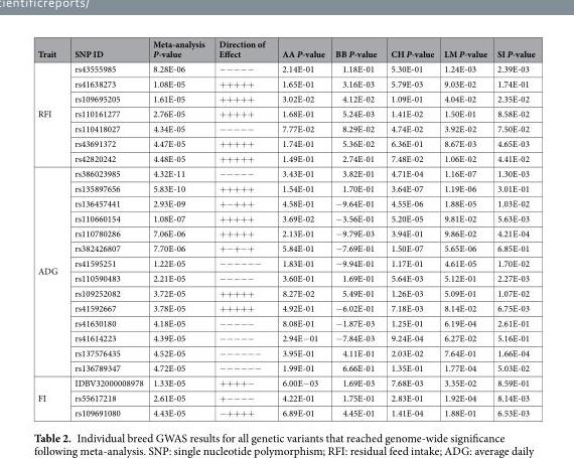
<table><thead><tr><td>Trait</td><td>SNP ID</td><td>Meta-analysis P-value</td><td>Direction of Effect</td><td>AA P-value</td><td>BB P-value</td><td>CH P-value</td><td>LM P-value</td><td>SI P-value</td></tr></thead><tbody><tr><td rowspan="7">RFI</td><td>rs43555985</td><td>8.28E-06</td><td>−−−−−</td><td>2.14E-01</td><td>1.18E-01</td><td>5.30E-01</td><td>1.24E-03</td><td>2.39E-03</td></tr><tr><td>rs41638273</td><td>1.08E-05</td><td>+++++</td><td>1.65E-01</td><td>3.16E-03</td><td>5.79E-03</td><td>9.03E-02</td><td>1.74E-01</td></tr><tr><td>rs109695205</td><td>1.61E-05</td><td>+++++</td><td>3.02E-02</td><td>4.12E-02</td><td>1.09E-01</td><td>4.04E-02</td><td>2.35E-02</td></tr><tr><td>rs110161277</td><td>2.76E-05</td><td>+++++</td><td>1.68E-01</td><td>5.24E-03</td><td>1.41E-02</td><td>1.50E-01</td><td>8.58E-02</td></tr><tr><td>rs110418027</td><td>4.34E-05</td><td>−−−−−</td><td>7.77E-02</td><td>8.29E-02</td><td>4.74E-02</td><td>3.92E-02</td><td>7.50E-02</td></tr><tr><td>rs43691372</td><td>4.47E-05</td><td>+++++</td><td>1.74E-01</td><td>5.36E-02</td><td>6.36E-01</td><td>8.67E-03</td><td>4.65E-03</td></tr><tr><td>rs42820242</td><td>4.48E-05</td><td>+++++</td><td>1.49E-01</td><td>2.74E-01</td><td>7.48E-02</td><td>1.06E-02</td><td>4.41E-02</td></tr><tr><td rowspan="14">ADG</td><td>rs386023985</td><td>4.32E-11</td><td>−−−−−</td><td>3.43E-01</td><td>3.82E-01</td><td>4.71E-04</td><td>1.16E-07</td><td>1.30E-03</td></tr><tr><td>rs135897656</td><td>5.83E-10</td><td>+++++</td><td>1.54E-01</td><td>1.70E-01</td><td>3.64E-07</td><td>1.19E-06</td><td>3.01E-01</td></tr><tr><td>rs136457441</td><td>2.93E-09</td><td>+−+++</td><td>4.58E-01</td><td>−9.64E-01</td><td>4.55E-06</td><td>1.88E-05</td><td>1.03E-02</td></tr><tr><td>rs110660154</td><td>1.08E-07</td><td>+++++</td><td>3.69E-02</td><td>−3.56E-01</td><td>5.20E-05</td><td>9.81E-02</td><td>5.63E-03</td></tr><tr><td>rs110780286</td><td>7.06E-06</td><td>+++++</td><td>2.13E-01</td><td>−9.79E-03</td><td>3.94E-01</td><td>9.86E-02</td><td>4.21E-04</td></tr><tr><td>rs382426807</td><td>7.70E-06</td><td>+−+−+</td><td>5.84E-01</td><td>−7.69E-01</td><td>1.50E-07</td><td>5.65E-06</td><td>6.85E-01</td></tr><tr><td>rs41595251</td><td>1.22E-05</td><td>−−−−−−</td><td>1.83E-01</td><td>−9.94E-01</td><td>1.17E-01</td><td>4.61E-05</td><td>1.70E-02</td></tr><tr><td>rs110590483</td><td>2.21E-05</td><td>−−−−−</td><td>3.60E-01</td><td>1.69E-01</td><td>5.64E-03</td><td>5.12E-01</td><td>2.27E-03</td></tr><tr><td>rs109252082</td><td>3.72E-05</td><td>+++++</td><td>8.27E-02</td><td>5.49E-01</td><td>1.26E-03</td><td>5.09E-01</td><td>1.07E-02</td></tr><tr><td>rs41592667</td><td>3.78E-05</td><td>+++++</td><td>4.92E-01</td><td>−6.02E-01</td><td>7.18E-03</td><td>8.14E-02</td><td>6.75E-03</td></tr><tr><td>rs41630180</td><td>4.18E-05</td><td>−−−−−</td><td>8.08E-01</td><td>−1.87E-03</td><td>1.25E-01</td><td>6.19E-04</td><td>2.61E-01</td></tr><tr><td>rs41614223</td><td>4.39E-05</td><td>−−−−−</td><td>2.94E−01</td><td>−7.84E-03</td><td>9.24E-04</td><td>6.27E-02</td><td>5.16E-01</td></tr><tr><td>rs137576435</td><td>4.52E-05</td><td>−−−−−−</td><td>3.95E-01</td><td>4.11E-01</td><td>2.03E-02</td><td>7.64E-01</td><td>1.66E-04</td></tr><tr><td>rs136789347</td><td>4.72E-05</td><td>−−−−−−</td><td>1.99E-01</td><td>6.66E-01</td><td>1.35E-01</td><td>1.77E-04</td><td>5.03E-02</td></tr><tr><td rowspan="3">FI</td><td>IDBV32000008978</td><td>1.33E-05</td><td>++++−</td><td>6.00E−03</td><td>1.69E-03</td><td>7.68E-03</td><td>3.35E-02</td><td>8.59E-01</td></tr><tr><td>rs55617218</td><td>2.61E-05</td><td>+−−−−</td><td>4.22E-01</td><td>1.75E-01</td><td>2.83E-01</td><td>1.92E-04</td><td>8.14E-03</td></tr><tr><td>rs109691080</td><td>4.43E-05</td><td>−++++</td><td>6.89E-01</td><td>4.45E-01</td><td>1.41E-04</td><td>1.88E-01</td><td>6.53E-03</td></tr></tbody></table>